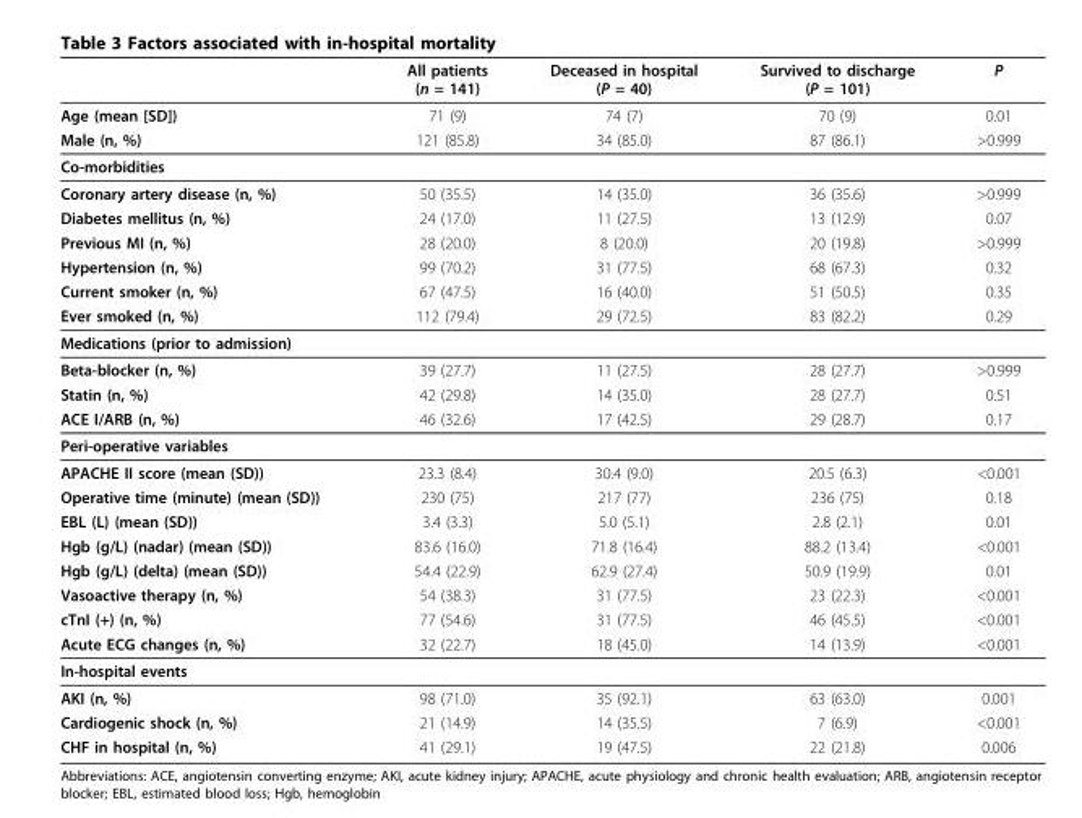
<table><thead><tr><td></td><td>All patients (n = 141)</td><td>Deceased in hospital (P = 40)</td><td>Survived to discharge (P = 101)</td><td>P</td></tr></thead><tbody><tr><td>Age (mean [SD])</td><td>71 (9)</td><td>74 (7)</td><td>70 (9)</td><td>0.01</td></tr><tr><td>Male (n, %)</td><td>121 (85.8)</td><td>34 (85.0)</td><td>87 (86.1)</td><td>&gt;0.999</td></tr><tr><td colspan="5">Co-morbidities</td></tr><tr><td>Coronary artery disease (n, %)</td><td>50 (35.5)</td><td>14 (35.0)</td><td>36 (35.6)</td><td>&gt;0.999</td></tr><tr><td>Diabetes mellitus (n, %)</td><td>24 (17.0)</td><td>11 (27.5)</td><td>13 (12.9)</td><td>0.07</td></tr><tr><td>Previous MI (n, %)</td><td>28 (20.0)</td><td>8 (20.0)</td><td>20 (19.8)</td><td>&gt;0.999</td></tr><tr><td>Hypertension (n, %)</td><td>99 (70.2)</td><td>31 (77.5)</td><td>68 (67.3)</td><td>0.32</td></tr><tr><td>Current smoker (n, %)</td><td>67 (47.5)</td><td>16 (40.0)</td><td>51 (50.5)</td><td>0.35</td></tr><tr><td>Ever smoked (n, %)</td><td>112 (79.4)</td><td>29 (72.5)</td><td>83 (82.2)</td><td>0.29</td></tr><tr><td colspan="5">Medications (prior to admission)</td></tr><tr><td>Beta-blocker (n, %)</td><td>39 (27.7)</td><td>11 (27.5)</td><td>28 (27.7)</td><td>&gt;0.999</td></tr><tr><td>Statin (n, %)</td><td>42 (29.8)</td><td>14 (35.0)</td><td>28 (27.7)</td><td>0.51</td></tr><tr><td>ACE I/ARB (n, %)</td><td>46 (32.6)</td><td>17 (42.5)</td><td>29 (28.7)</td><td>0.17</td></tr><tr><td colspan="5">Peri-operative variables</td></tr><tr><td>APACHE II score (mean (SD))</td><td>23.3 (8.4)</td><td>30.4 (9.0)</td><td>20.5 (6.3)</td><td>&lt;0.001</td></tr><tr><td>Operative time (minute) (mean (SD))</td><td>230 (75)</td><td>217 (77)</td><td>236 (75)</td><td>0.18</td></tr><tr><td>EBL (L) (mean (SD))</td><td>3.4 (3.3)</td><td>5.0 (5.1)</td><td>2.8 (2.1)</td><td>0.01</td></tr><tr><td>Hgb (g/L) (nadar) (mean (SD))</td><td>83.6 (16.0)</td><td>71.8 (16.4)</td><td>88.2 (13.4)</td><td>&lt;0.001</td></tr><tr><td>Hgb (g/L) (delta) (mean (SD))</td><td>54.4 (22.9)</td><td>62.9 (27.4)</td><td>50.9 (19.9)</td><td>0.01</td></tr><tr><td>Vasoactive therapy (n, %)</td><td>54 (38.3)</td><td>31 (77.5)</td><td>23 (22.3)</td><td>&lt;0.001</td></tr><tr><td>cTnI (+) (n, %)</td><td>77 (54.6)</td><td>31 (77.5)</td><td>46 (45.5)</td><td>&lt;0.001</td></tr><tr><td>Acute ECG changes (n, %)</td><td>32 (22.7)</td><td>18 (45.0)</td><td>14 (13.9)</td><td>&lt;0.001</td></tr><tr><td colspan="5">In-hospital events</td></tr><tr><td>AKI (n, %)</td><td>98 (71.0)</td><td>35 (92.1)</td><td>63 (63.0)</td><td>0.001</td></tr><tr><td>Cardiogenic shock (n, %)</td><td>21 (14.9)</td><td>14 (35.5)</td><td>7 (6.9)</td><td>&lt;0.001</td></tr><tr><td>CHF in hospital (n, %)</td><td>41 (29.1)</td><td>19 (47.5)</td><td>22 (21.8)</td><td>0.006</td></tr></tbody></table>